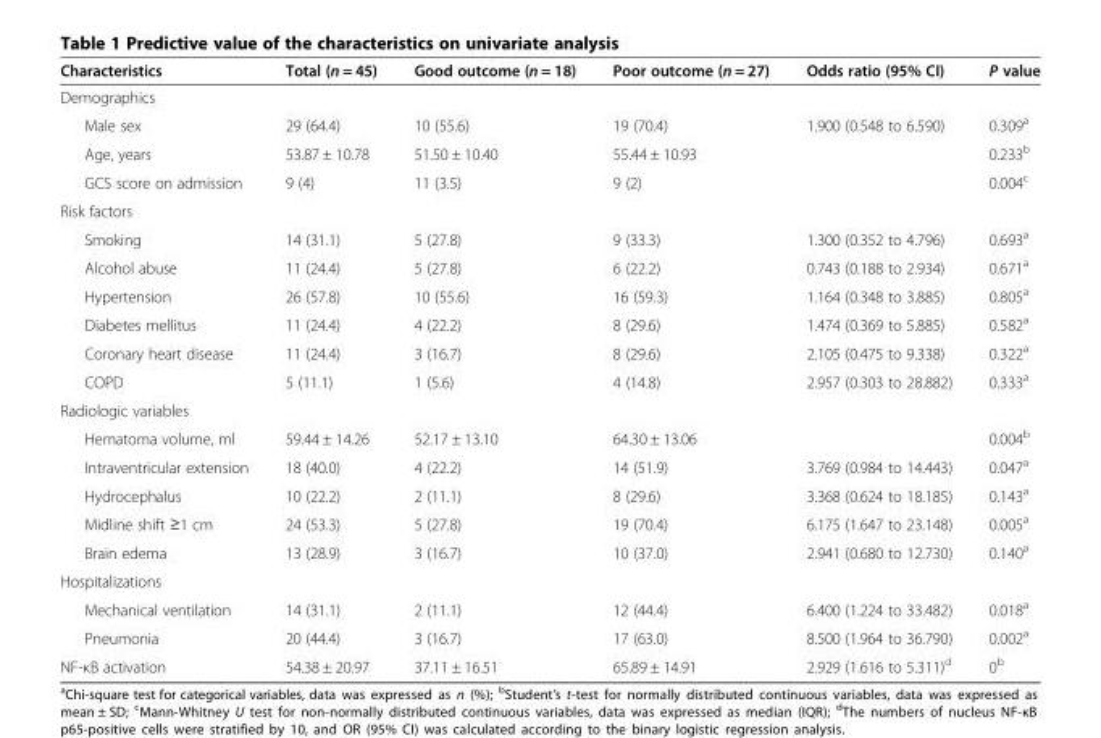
<table><thead><tr><td>Characteristics</td><td>Total (n = 45)</td><td>Good outcome (n = 18)</td><td>Poor outcome (n = 27)</td><td>Odds ratio (95% CI)</td><td>P value</td></tr></thead><tbody><tr><td colspan="6">Demographics</td></tr><tr><td>Male sex</td><td>29 (64.4)</td><td>10 (55.6)</td><td>19 (70.4)</td><td>1.900 (0.548 to 6.590)</td><td>0.309<sup>a</sup></td></tr><tr><td>Age, years</td><td>53.87 ± 10.78</td><td>51.50 ± 10.40</td><td>55.44 ± 10.93</td><td></td><td>0.233<sup>b</sup></td></tr><tr><td>GCS score on admission</td><td>9 (4)</td><td>11 (3.5)</td><td>9 (2)</td><td></td><td>0.004<sup>c</sup></td></tr><tr><td colspan="6">Risk factors</td></tr><tr><td>Smoking</td><td>14 (31.1)</td><td>5 (27.8)</td><td>9 (33.3)</td><td>1.300 (0.352 to 4.796)</td><td>0.693<sup>a</sup></td></tr><tr><td>Alcohol abuse</td><td>11 (24.4)</td><td>5 (27.8)</td><td>6 (22.2)</td><td>0.743 (0.188 to 2.934)</td><td>0.671<sup>a</sup></td></tr><tr><td>Hypertension</td><td>26 (57.8)</td><td>10 (55.6)</td><td>16 (59.3)</td><td>1.164 (0.348 to 3.885)</td><td>0.805<sup>a</sup></td></tr><tr><td>Diabetes mellitus</td><td>11 (24.4)</td><td>4 (22.2)</td><td>8 (29.6)</td><td>1.474 (0.369 to 5.885)</td><td>0.582<sup>a</sup></td></tr><tr><td>Coronary heart disease</td><td>11 (24.4)</td><td>3 (16.7)</td><td>8 (29.6)</td><td>2.105 (0.475 to 9.338)</td><td>0.322<sup>a</sup></td></tr><tr><td>COPD</td><td>5 (11.1)</td><td>1 (5.6)</td><td>4 (14.8)</td><td>2.957 (0.303 to 28.882)</td><td>0.333<sup>a</sup></td></tr><tr><td colspan="6">Radiologic variables</td></tr><tr><td>Hematoma volume, ml</td><td>59.44 ± 14.26</td><td>52.17 ± 13.10</td><td>64.30 ± 13.06</td><td></td><td>0.004<sup>b</sup></td></tr><tr><td>Intraventricular extension</td><td>18 (40.0)</td><td>4 (22.2)</td><td>14 (51.9)</td><td>3.769 (0.984 to 14.443)</td><td>0.047<sup>a</sup></td></tr><tr><td>Hydrocephalus</td><td>10 (22.2)</td><td>2 (11.1)</td><td>8 (29.6)</td><td>3.368 (0.624 to 18.185)</td><td>0.143<sup>a</sup></td></tr><tr><td>Midline shift ≥1 cm</td><td>24 (53.3)</td><td>5 (27.8)</td><td>19 (70.4)</td><td>6.175 (1.647 to 23.148)</td><td>0.005<sup>a</sup></td></tr><tr><td>Brain edema</td><td>13 (28.9)</td><td>3 (16.7)</td><td>10 (37.0)</td><td>2.941 (0.680 to 12.730)</td><td>0.140<sup>a</sup></td></tr><tr><td colspan="6">Hospitalizations</td></tr><tr><td>Mechanical ventilation</td><td>14 (31.1)</td><td>2 (11.1)</td><td>12 (44.4)</td><td>6.400 (1.224 to 33.482)</td><td>0.018<sup>a</sup></td></tr><tr><td>Pneumonia</td><td>20 (44.4)</td><td>3 (16.7)</td><td>17 (63.0)</td><td>8.500 (1.964 to 36.790)</td><td>0.002<sup>a</sup></td></tr><tr><td>NF-κB activation</td><td>54.38 ± 20.97</td><td>37.11 ± 16.51</td><td>65.89 ± 14.91</td><td>2.929 (1.616 to 5.311)<sup>d</sup></td><td>0<sup>b</sup></td></tr></tbody></table>